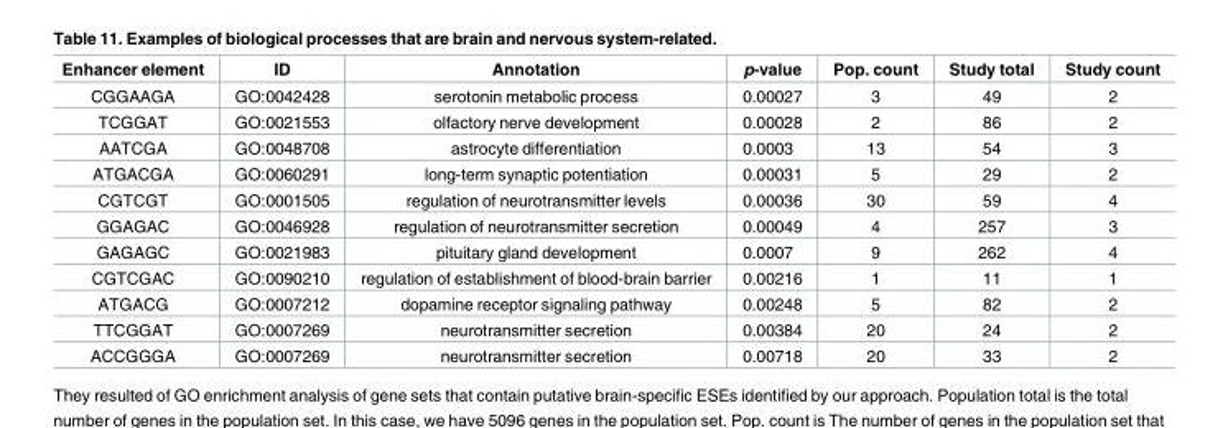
<table><thead><tr><td>Enhancer element</td><td>ID</td><td>Annotation</td><td>p-value</td><td>Pop. count</td><td>Study total</td><td>Study count</td></tr></thead><tbody><tr><td>CGGAAGA</td><td>GO:0042428</td><td>serotonin metabolic process</td><td>0.00027</td><td>3</td><td>49</td><td>2</td></tr><tr><td>TCGGAT</td><td>GO:0021553</td><td>olfactory nerve development</td><td>0.00028</td><td>2</td><td>86</td><td>2</td></tr><tr><td>AATCGA</td><td>GO:0048708</td><td>astrocyte differentiation</td><td>0.0003</td><td>13</td><td>54</td><td>3</td></tr><tr><td>ATGACGA</td><td>GO:0060291</td><td>long-term synaptic potentiation</td><td>0.00031</td><td>5</td><td>29</td><td>2</td></tr><tr><td>CGTCGT</td><td>GO:0001505</td><td>regulation of neurotransmitter levels</td><td>0.00036</td><td>30</td><td>59</td><td>4</td></tr><tr><td>GGAGAC</td><td>GO:0046928</td><td>regulation of neurotransmitter secretion</td><td>0.00049</td><td>4</td><td>257</td><td>3</td></tr><tr><td>GAGAGC</td><td>GO:0021983</td><td>pituitary gland development</td><td>0.0007</td><td>9</td><td>262</td><td>4</td></tr><tr><td>CGTCGAC</td><td>GO:0090210</td><td>regulation of establishment of blood-brain barrier</td><td>0.00216</td><td>1</td><td>11</td><td>1</td></tr><tr><td>ATGACG</td><td>GO:0007212</td><td>dopamine receptor signaling pathway</td><td>0.00248</td><td>5</td><td>82</td><td>2</td></tr><tr><td>TTCGGAT</td><td>GO:0007269</td><td>neurotransmitter secretion</td><td>0.00384</td><td>20</td><td>24</td><td>2</td></tr><tr><td>ACCGGGA</td><td>GO:0007269</td><td>neurotransmitter secretion</td><td>0.00718</td><td>20</td><td>33</td><td>2</td></tr></tbody></table>